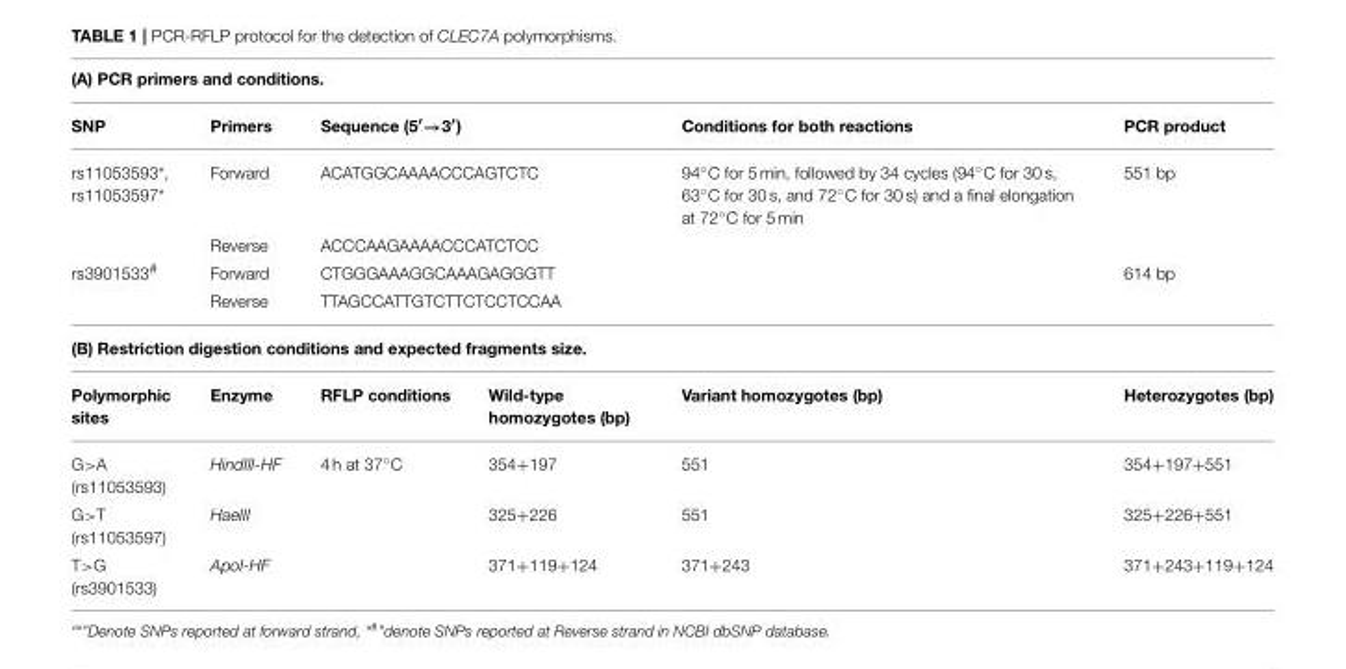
<table><thead><tr><td colspan="6">(A) PCR primers and conditions.</td></tr></thead><tbody><tr><td>SNP</td><td>Primers</td><td colspan="2">Sequence (5′→3′)</td><td>Conditions for both reactions</td><td>PCR product</td></tr><tr><td rowspan="2">rs11053593*, rs11053597*</td><td>Forward</td><td colspan="2">ACATGGCAAAACCCAGTCTC</td><td>94◦C for 5 min, followed by 34 cycles (94◦C for 30 s, 63◦C for 30 s, and 72◦C for 30 s) and a final elongation at 72◦C for 5 min</td><td>551 bp</td></tr><tr><td>Reverse</td><td colspan="2">ACCCAAGAAAACCCATCTCC</td><td></td><td></td></tr><tr><td rowspan="2">rs3901533<sup>#</sup></td><td>Forward</td><td colspan="2">CTGGGAAAGGCAAAGAGGGTT</td><td></td><td>614 bp</td></tr><tr><td>Reverse</td><td colspan="2">TTAGCCATTGTCTTCTCCTCCAA</td><td></td><td></td></tr><tr><td colspan="6">(B) Restriction digestion conditions and expected fragments size.</td></tr><tr><td>Polymorphic sites</td><td>Enzyme</td><td>RFLP conditions</td><td>Wild-type homozygotes (bp)</td><td>Variant homozygotes (bp)</td><td>Heterozygotes (bp)</td></tr><tr><td>G&gt;A (rs11053593)</td><td>HindIII-HF</td><td>4 h at 37◦C</td><td>354+197</td><td>551</td><td>354+197+551</td></tr><tr><td>G&gt;T (rs11053597)</td><td>HaeIII</td><td></td><td>325+226</td><td>551</td><td>325+226+551</td></tr><tr><td>T&gt;G (rs3901533)</td><td>ApoI-HF</td><td></td><td>371+119+124</td><td>371+243</td><td>371+243+119+124</td></tr></tbody></table>